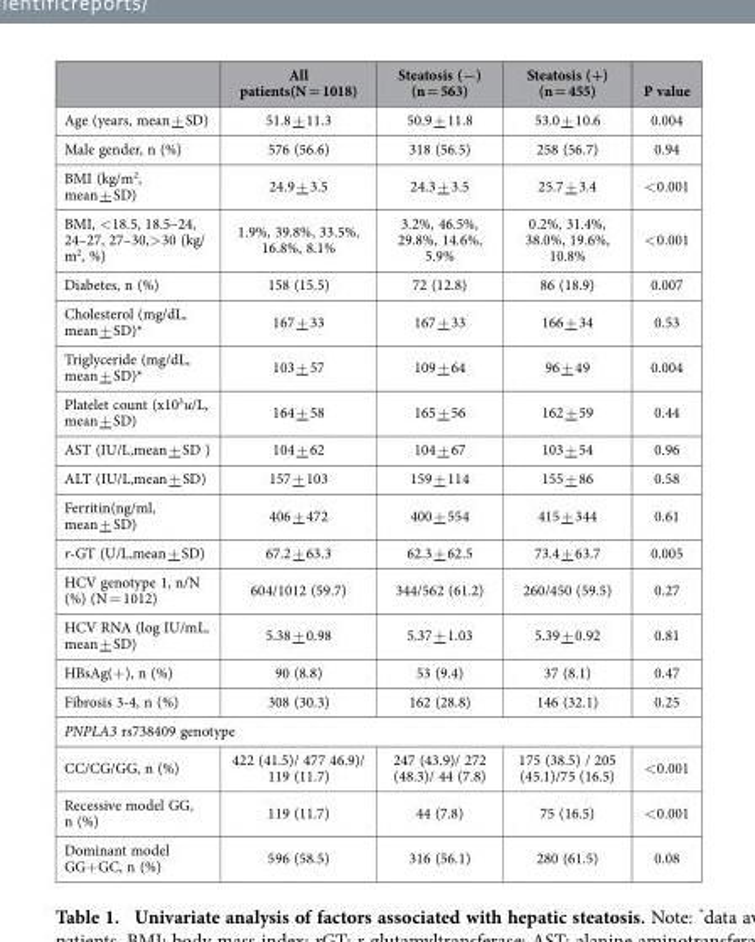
<table><thead><tr><td></td><td>All patients(N = 1018)</td><td>Steatosis (−) (n = 563)</td><td>Steatosis (+) (n = 455)</td><td>P value</td></tr></thead><tbody><tr><td>Age (years, mean + SD)</td><td>51.8 + 11.3</td><td>50.9 + 11.8</td><td>53.0 + 10.6</td><td>0.004</td></tr><tr><td>Male gender, n (%)</td><td>576 (56.6)</td><td>318 (56.5)</td><td>258 (56.7)</td><td>0.94</td></tr><tr><td>BMI (kg/m<sup>2</sup>, mean + SD)</td><td>24.9 + 3.5</td><td>24.3 + 3.5</td><td>25.7 + 3.4</td><td>&lt; 0.001</td></tr><tr><td>BMI, &lt; 18.5, 18.5–24, 24–27, 27–30,&gt; 30 (kg/ m<sup>2</sup>, %)</td><td>1.9%, 39.8%, 33.5%, 16.8%, 8.1%</td><td>3.2%, 46.5%, 29.8%, 14.6%, 5.9%</td><td>0.2%, 31.4%, 38.0%, 19.6%, 10.8%</td><td>&lt; 0.001</td></tr><tr><td>Diabetes, n (%)</td><td>158 (15.5)</td><td>72 (12.8)</td><td>86 (18.9)</td><td>0.007</td></tr><tr><td>Cholesterol (mg/dL, mean + SD)*</td><td>167 + 33</td><td>167 + 33</td><td>166 + 34</td><td>0.53</td></tr><tr><td>Triglyceride (mg/dL, mean + SD)*</td><td>103 + 57</td><td>109 + 64</td><td>96 + 49</td><td>0.004</td></tr><tr><td>Platelet count (x10<sup>3</sup>u/L, mean + SD)</td><td>164 + 58</td><td>165 + 56</td><td>162 + 59</td><td>0.44</td></tr><tr><td>AST (IU/L,mean + SD )</td><td>104 + 62</td><td>104 + 67</td><td>103 + 54</td><td>0.96</td></tr><tr><td>ALT (IU/L,mean + SD)</td><td>157 + 103</td><td>159 + 114</td><td>155 + 86</td><td>0.58</td></tr><tr><td>Ferritin(ng/ml, mean + SD)</td><td>406 + 472</td><td>400 + 554</td><td>415 + 344</td><td>0.61</td></tr><tr><td>r-GT (U/L,mean + SD)</td><td>67.2 + 63.3</td><td>62.3 + 62.5</td><td>73.4 + 63.7</td><td>0.005</td></tr><tr><td>HCV genotype 1, n/N (%) (N = 1012)</td><td>604/1012 (59.7)</td><td>344/562 (61.2)</td><td>260/450 (59.5)</td><td>0.27</td></tr><tr><td>HCV RNA (log IU/mL, mean + SD)</td><td>5.38 + 0.98</td><td>5.37 + 1.03</td><td>5.39 + 0.92</td><td>0.81</td></tr><tr><td>HBsAg(+ ), n (%)</td><td>90 (8.8)</td><td>53 (9.4)</td><td>37 (8.1)</td><td>0.47</td></tr><tr><td>Fibrosis 3-4, n (%)</td><td>308 (30.3)</td><td>162 (28.8)</td><td>146 (32.1)</td><td>0.25</td></tr><tr><td colspan="5">PNPLA3 rs738409 genotype</td></tr><tr><td>CC/CG/GG, n (%)</td><td>422 (41.5)/ 477 46.9)/ 119 (11.7)</td><td>247 (43.9)/ 272 (48.3)/ 44 (7.8)</td><td>175 (38.5) / 205 (45.1)/75 (16.5)</td><td>&lt; 0.001</td></tr><tr><td>Recessive model GG, n (%)</td><td>119 (11.7)</td><td>44 (7.8)</td><td>75 (16.5)</td><td>&lt; 0.001</td></tr><tr><td>Dominant model GG+ GC, n (%)</td><td>596 (58.5)</td><td>316 (56.1)</td><td>280 (61.5)</td><td>0.08</td></tr></tbody></table>